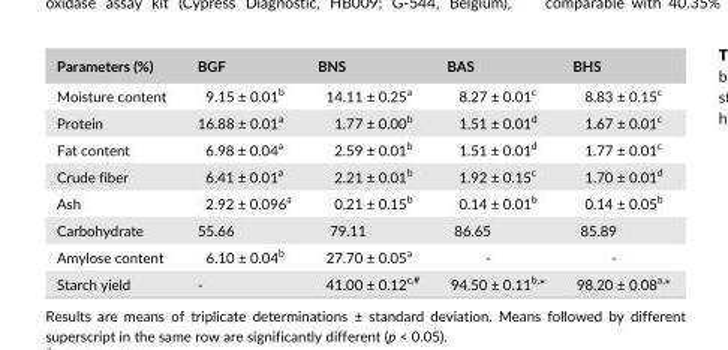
<table><thead><tr><td>Parameters (%)</td><td>BGF</td><td>BNS</td><td>BAS</td><td>BHS</td></tr></thead><tbody><tr><td>Moisture content</td><td>9.15 ± 0.01<sup>b</sup></td><td>14.11 ± 0.25<sup>a</sup></td><td>8.27 ± 0.01<sup>c</sup></td><td>8.83 ± 0.15<sup>c</sup></td></tr><tr><td>Protein</td><td>16.88 ± 0.01<sup>a</sup></td><td>1.77 ± 0.00<sup>b</sup></td><td>1.51 ± 0.01<sup>d</sup></td><td>1.67 ± 0.01<sup>c</sup></td></tr><tr><td>Fat content</td><td>6.98 ± 0.04<sup>a</sup></td><td>2.59 ± 0.01<sup>b</sup></td><td>1.51 ± 0.01<sup>d</sup></td><td>1.77 ± 0.01<sup>c</sup></td></tr><tr><td>Crude fiber</td><td>6.41 ± 0.01<sup>a</sup></td><td>2.21 ± 0.01<sup>b</sup></td><td>1.92 ± 0.15<sup>c</sup></td><td>1.70 ± 0.01<sup>d</sup></td></tr><tr><td>Ash</td><td>2.92 ± 0.096<sup>a</sup></td><td>0.21 ± 0.15<sup>b</sup></td><td>0.14 ± 0.01<sup>b</sup></td><td>0.14 ± 0.05<sup>b</sup></td></tr><tr><td>Carbohydrate</td><td>55.66</td><td>79.11</td><td>86.65</td><td>85.89</td></tr><tr><td>Amylose content</td><td>6.10 ± 0.04<sup>b</sup></td><td>27.70 ± 0.05<sup>a</sup></td><td>-</td><td>-</td></tr><tr><td>Starch yield</td><td>-</td><td>41.00 ± 0.12c,#</td><td>94.50 ± 0.11b,*</td><td>98.20 ± 0.08a,*</td></tr></tbody></table>